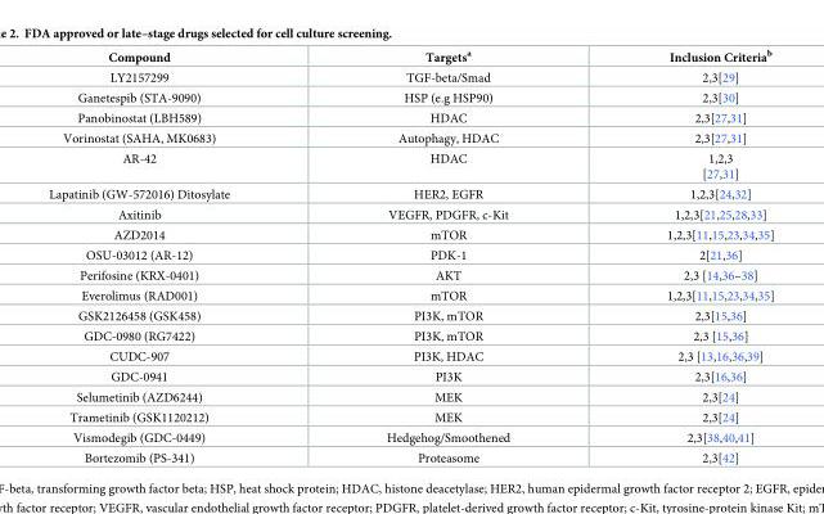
<table><thead><tr><td>Compound</td><td>Targets<sup>a</sup></td><td>Inclusion Criteria<sup>b</sup></td></tr></thead><tbody><tr><td>LY2157299</td><td>TGF-beta/Smad</td><td>2,3[29]</td></tr><tr><td>Ganetespib (STA-9090)</td><td>HSP (e.g HSP90)</td><td>2,3[30]</td></tr><tr><td>Panobinostat (LBH589)</td><td>HDAC</td><td>2,3[27,31]</td></tr><tr><td>Vorinostat (SAHA, MK0683)</td><td>Autophagy, HDAC</td><td>2,3[27,31]</td></tr><tr><td>AR-42</td><td>HDAC</td><td>1,2,3 [27,31]</td></tr><tr><td>Lapatinib (GW-572016) Ditosylate</td><td>HER2, EGFR</td><td>1,2,3[24,32]</td></tr><tr><td>Axitinib</td><td>VEGFR, PDGFR, c-Kit</td><td>1,2,3[21,25,28,33]</td></tr><tr><td>AZD2014</td><td>mTOR</td><td>1,2,3[11,15,23,34,35]</td></tr><tr><td>OSU-03012 (AR-12)</td><td>PDK-1</td><td>2[21,36]</td></tr><tr><td>Perifosine (KRX-0401)</td><td>AKT</td><td>2,3 [14,36–38]</td></tr><tr><td>Everolimus (RAD001)</td><td>mTOR</td><td>1,2,3[11,15,23,34,35]</td></tr><tr><td>GSK2126458 (GSK458)</td><td>PI3K, mTOR</td><td>2,3[15,36]</td></tr><tr><td>GDC-0980 (RG7422)</td><td>PI3K, mTOR</td><td>2,3 [15,36]</td></tr><tr><td>CUDC-907</td><td>PI3K, HDAC</td><td>2,3 [13,16,36,39]</td></tr><tr><td>GDC-0941</td><td>PI3K</td><td>2,3[16,36]</td></tr><tr><td>Selumetinib (AZD6244)</td><td>MEK</td><td>2,3[24]</td></tr><tr><td>Trametinib (GSK1120212)</td><td>MEK</td><td>2,3[24]</td></tr><tr><td>Vismodegib (GDC-0449)</td><td>Hedgehog/Smoothened</td><td>2,3[38,40,41]</td></tr><tr><td>Bortezomib (PS-341)</td><td>Proteasome</td><td>2,3[42]</td></tr></tbody></table>